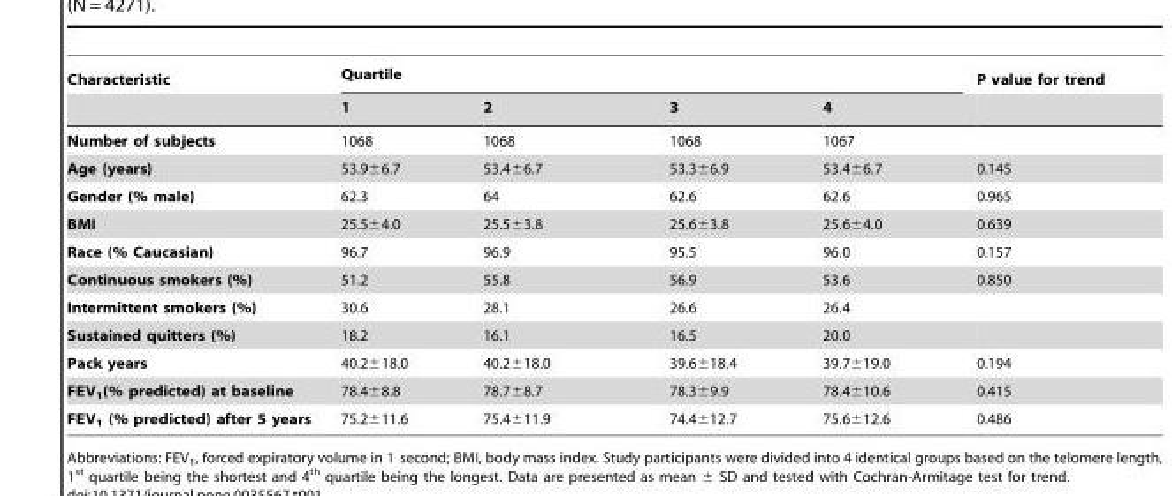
<table><thead><tr><td rowspan="2">Characteristic</td><td colspan="4">Quartile</td><td rowspan="2">P value for trend</td></tr><tr><td>1</td><td>2</td><td>3</td><td>4</td></tr></thead><tbody><tr><td>Number of subjects</td><td>1068</td><td>1068</td><td>1068</td><td>1067</td><td></td></tr><tr><td>Age (years)</td><td>53.9±6.7</td><td>53.4±6.7</td><td>53.3±6.9</td><td>53.4±6.7</td><td>0.145</td></tr><tr><td>Gender (% male)</td><td>62.3</td><td>64</td><td>62.6</td><td>62.6</td><td>0.965</td></tr><tr><td>BMI</td><td>25.5±4.0</td><td>25.5±3.8</td><td>25.6±3.8</td><td>25.6±4.0</td><td>0.639</td></tr><tr><td>Race (% Caucasian)</td><td>96.7</td><td>96.9</td><td>95.5</td><td>96.0</td><td>0.157</td></tr><tr><td>Continuous smokers (%)</td><td>51.2</td><td>55.8</td><td>56.9</td><td>53.6</td><td>0.850</td></tr><tr><td>Intermittent smokers (%)</td><td>30.6</td><td>28.1</td><td>26.6</td><td>26.4</td><td></td></tr><tr><td>Sustained quitters (%)</td><td>18.2</td><td>16.1</td><td>16.5</td><td>20.0</td><td></td></tr><tr><td>Pack years</td><td>40.2±18.0</td><td>40.2±18.0</td><td>39.6±18.4</td><td>39.7±19.0</td><td>0.194</td></tr><tr><td>FEV<sub>1</sub>(% predicted) at baseline</td><td>78.4±8.8</td><td>78.7±8.7</td><td>78.3±9.9</td><td>78.4±10.6</td><td>0.415</td></tr><tr><td>FEV<sub>1</sub> (% predicted) after 5 years</td><td>75.2±11.6</td><td>75.4±11.9</td><td>74.4±12.7</td><td>75.6±12.6</td><td>0.486</td></tr></tbody></table>